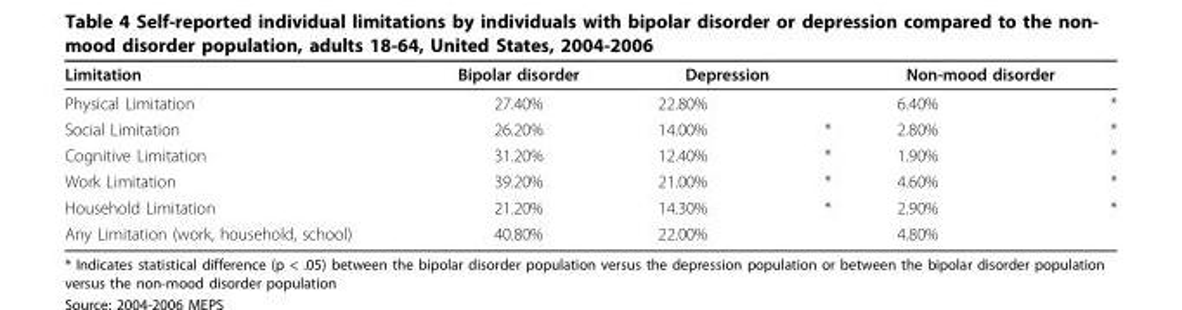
<table><thead><tr><td rowspan="2">Limitation Physical Limitation</td><td rowspan="2">Bipolar disorder 27.40%</td><td colspan="2">Depression</td><td colspan="2">Non-mood disorder</td></tr><tr><td>22.80%</td><td></td><td>6.40%</td><td>*</td></tr></thead><tbody><tr><td>Social Limitation</td><td>26.20%</td><td>14.00%</td><td>*</td><td>2.80%</td><td>*</td></tr><tr><td>Cognitive Limitation</td><td>31.20%</td><td>12.40%</td><td>*</td><td>1.90%</td><td>*</td></tr><tr><td>Work Limitation</td><td>39.20%</td><td>21.00%</td><td>*</td><td>4.60%</td><td>*</td></tr><tr><td>Household Limitation</td><td>21.20%</td><td>14.30%</td><td>*</td><td>2.90%</td><td>*</td></tr><tr><td>Any Limitation (work, household, school)</td><td>40.80%</td><td>22.00%</td><td></td><td>4.80%</td><td></td></tr></tbody></table>